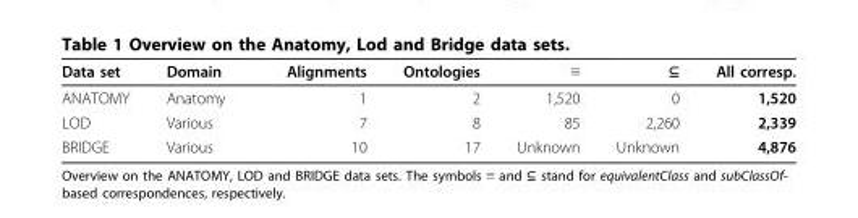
<table><thead><tr><td>Data set</td><td>Domain</td><td>Alignments</td><td>Ontologies</td><td>≡</td><td>⊆</td><td>All corresp.</td></tr></thead><tbody><tr><td>ANATOMY</td><td>Anatomy</td><td>1</td><td>2</td><td>1,520</td><td>0</td><td>1,520</td></tr><tr><td>LOD</td><td>Various</td><td>7</td><td>8</td><td>85</td><td>2,260</td><td>2,339</td></tr><tr><td>BRIDGE</td><td>Various</td><td>10</td><td>17</td><td>Unknown</td><td>Unknown</td><td>4,876</td></tr></tbody></table>